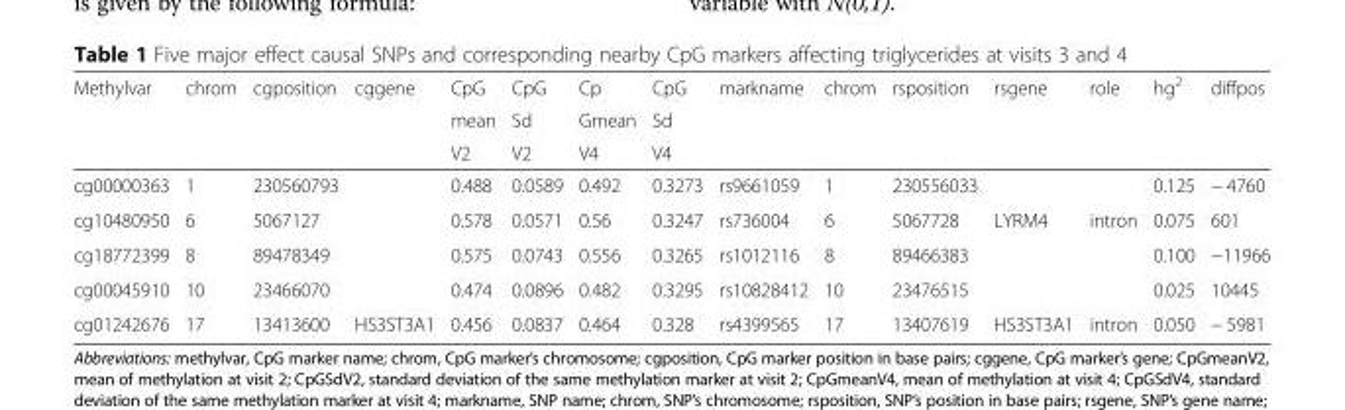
<table><thead><tr><td rowspan="3">Methylvar</td><td rowspan="3">chrom</td><td rowspan="3">cgposition</td><td rowspan="3">cggene</td><td rowspan="3">CpG mean V2</td><td rowspan="3">CpG Sd V2</td><td rowspan="3">Cp Gmean V4</td><td rowspan="3">CpG Sd V4</td><td rowspan="3">markname</td><td rowspan="3">chrom</td><td rowspan="3">rsposition</td><td rowspan="3">rsgene</td><td rowspan="3">role</td><td rowspan="3">hg<sup>2</sup></td><td rowspan="3">diffpos</td></tr><tr></tr><tr></tr></thead><tbody><tr><td>cg00000363</td><td>1</td><td>230560793</td><td></td><td>0.488</td><td>0.0589</td><td>0.492</td><td>0.3273</td><td>rs9661059</td><td>1</td><td>230556033</td><td></td><td></td><td>0.125</td><td>− 4760</td></tr><tr><td>cg10480950</td><td>6</td><td>5067127</td><td></td><td>0.578</td><td>0.0571</td><td>0.56</td><td>0.3247</td><td>rs736004</td><td>6</td><td>5067728</td><td>LYRM4</td><td>intron</td><td>0.075</td><td>601</td></tr><tr><td>cg18772399</td><td>8</td><td>89478349</td><td></td><td>0.575</td><td>0.0743</td><td>0.556</td><td>0.3265</td><td>rs1012116</td><td>8</td><td>89466383</td><td></td><td></td><td>0.100</td><td>−11966</td></tr><tr><td>cg00045910</td><td>10</td><td>23466070</td><td></td><td>0.474</td><td>0.0896</td><td>0.482</td><td>0.3295</td><td>rs10828412</td><td>10</td><td>23476515</td><td></td><td></td><td>0.025</td><td>10445</td></tr><tr><td>cg01242676</td><td>17</td><td>13413600</td><td>HS3ST3A1</td><td>0.456</td><td>0.0837</td><td>0.464</td><td>0.328</td><td>rs4399565</td><td>17</td><td>13407619</td><td>HS3ST3A1</td><td>intron</td><td>0.050</td><td>− 5981</td></tr></tbody></table>